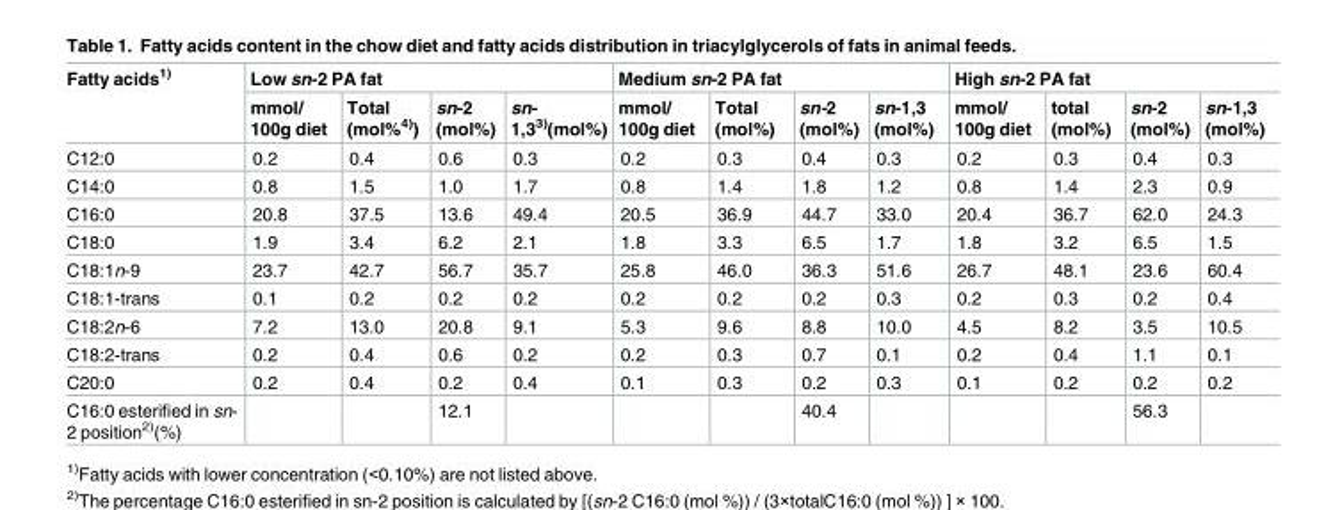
<table><thead><tr><td rowspan="2">Fatty acids<sup>1)</sup></td><td colspan="4">Low sn-2 PA fat</td><td colspan="4">Medium sn-2 PA fat</td><td colspan="4">High sn-2 PA fat</td></tr><tr><td>mmol/ 100g diet</td><td>Total (mol%<sup>4)</sup>)</td><td>sn-2 (mol%)</td><td>sn- 1,3<sup>3)</sup>(mol%)</td><td>mmol/ 100g diet</td><td>Total (mol%)</td><td>sn-2 (mol%)</td><td>sn-1,3 (mol%)</td><td>mmol/ 100g diet</td><td>total (mol%)</td><td>sn-2 (mol%)</td><td>sn-1,3 (mol%)</td></tr></thead><tbody><tr><td>C12:0</td><td>0.2</td><td>0.4</td><td>0.6</td><td>0.3</td><td>0.2</td><td>0.3</td><td>0.4</td><td>0.3</td><td>0.2</td><td>0.3</td><td>0.4</td><td>0.3</td></tr><tr><td>C14:0</td><td>0.8</td><td>1.5</td><td>1.0</td><td>1.7</td><td>0.8</td><td>1.4</td><td>1.8</td><td>1.2</td><td>0.8</td><td>1.4</td><td>2.3</td><td>0.9</td></tr><tr><td>C16:0</td><td>20.8</td><td>37.5</td><td>13.6</td><td>49.4</td><td>20.5</td><td>36.9</td><td>44.7</td><td>33.0</td><td>20.4</td><td>36.7</td><td>62.0</td><td>24.3</td></tr><tr><td>C18:0</td><td>1.9</td><td>3.4</td><td>6.2</td><td>2.1</td><td>1.8</td><td>3.3</td><td>6.5</td><td>1.7</td><td>1.8</td><td>3.2</td><td>6.5</td><td>1.5</td></tr><tr><td>C18:1n-9</td><td>23.7</td><td>42.7</td><td>56.7</td><td>35.7</td><td>25.8</td><td>46.0</td><td>36.3</td><td>51.6</td><td>26.7</td><td>48.1</td><td>23.6</td><td>60.4</td></tr><tr><td>C18:1-trans</td><td>0.1</td><td>0.2</td><td>0.2</td><td>0.2</td><td>0.2</td><td>0.2</td><td>0.2</td><td>0.3</td><td>0.2</td><td>0.3</td><td>0.2</td><td>0.4</td></tr><tr><td>C18:2n-6</td><td>7.2</td><td>13.0</td><td>20.8</td><td>9.1</td><td>5.3</td><td>9.6</td><td>8.8</td><td>10.0</td><td>4.5</td><td>8.2</td><td>3.5</td><td>10.5</td></tr><tr><td>C18:2-trans</td><td>0.2</td><td>0.4</td><td>0.6</td><td>0.2</td><td>0.2</td><td>0.3</td><td>0.7</td><td>0.1</td><td>0.2</td><td>0.4</td><td>1.1</td><td>0.1</td></tr><tr><td>C20:0</td><td>0.2</td><td>0.4</td><td>0.2</td><td>0.4</td><td>0.1</td><td>0.3</td><td>0.2</td><td>0.3</td><td>0.1</td><td>0.2</td><td>0.2</td><td>0.2</td></tr><tr><td>C16:0 esterified in sn- 2 position<sup>2)</sup>(%)</td><td></td><td></td><td>12.1</td><td></td><td></td><td></td><td>40.4</td><td></td><td></td><td></td><td>56.3</td><td></td></tr></tbody></table>